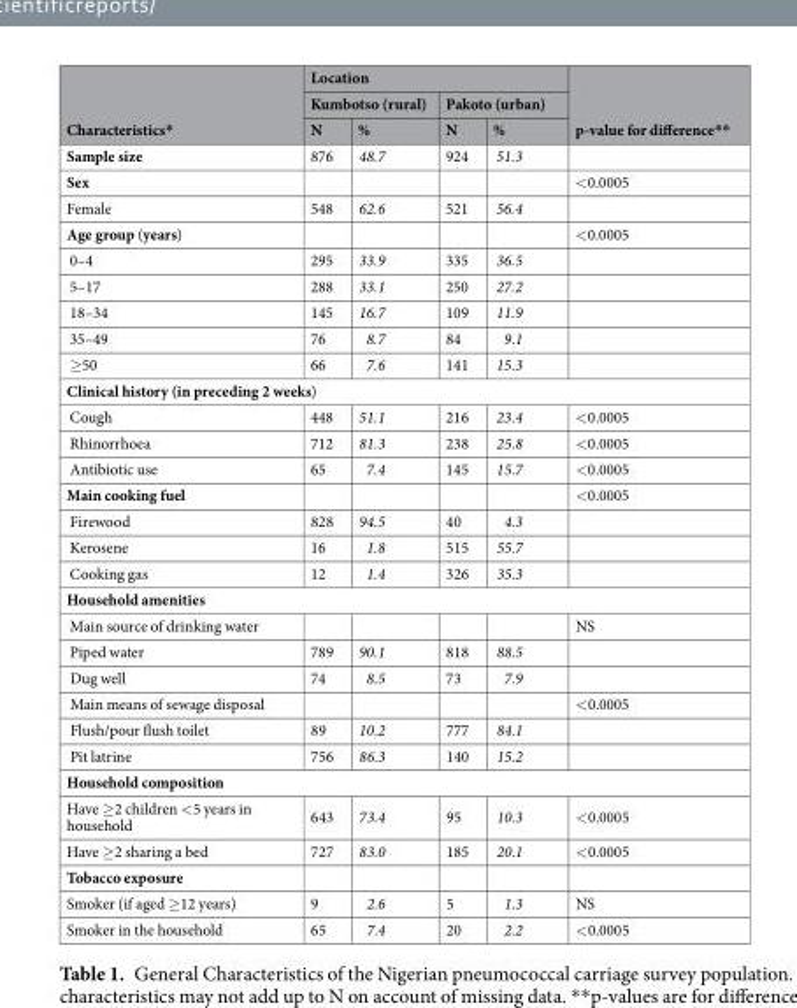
<table><thead><tr><td rowspan="3">Characteristics*</td><td colspan="4">Location</td><td rowspan="3">p-value for difference**</td></tr><tr><td colspan="2">Kumbotso (rural)</td><td colspan="2">Pakoto (urban)</td></tr><tr><td>N</td><td>%</td><td>N</td><td>%</td></tr></thead><tbody><tr><td>Sample size</td><td>876</td><td>48.7</td><td>924</td><td>51.3</td><td></td></tr><tr><td>Sex</td><td></td><td></td><td></td><td></td><td>&lt;0.0005</td></tr><tr><td>Female</td><td>548</td><td>62.6</td><td>521</td><td>56.4</td><td></td></tr><tr><td>Age group (years)</td><td></td><td></td><td></td><td></td><td>&lt;0.0005</td></tr><tr><td>0–4</td><td>295</td><td>33.9</td><td>335</td><td>36.5</td><td></td></tr><tr><td>5–17</td><td>288</td><td>33.1</td><td>250</td><td>27.2</td><td></td></tr><tr><td>18–34</td><td>145</td><td>16.7</td><td>109</td><td>11.9</td><td></td></tr><tr><td>35–49</td><td>76</td><td>8.7</td><td>84</td><td>9.1</td><td></td></tr><tr><td>≥50</td><td>66</td><td>7.6</td><td>141</td><td>15.3</td><td></td></tr><tr><td colspan="6">Clinical history (in preceding 2 weeks)</td></tr><tr><td>Cough</td><td>448</td><td>51.1</td><td>216</td><td>23.4</td><td>&lt;0.0005</td></tr><tr><td>Rhinorrhoea</td><td>712</td><td>81.3</td><td>238</td><td>25.8</td><td>&lt;0.0005</td></tr><tr><td>Antibiotic use</td><td>65</td><td>7.4</td><td>145</td><td>15.7</td><td>&lt;0.0005</td></tr><tr><td>Main cooking fuel</td><td></td><td></td><td></td><td></td><td>&lt;0.0005</td></tr><tr><td>Firewood</td><td>828</td><td>94.5</td><td>40</td><td>4.3</td><td></td></tr><tr><td>Kerosene</td><td>16</td><td>1.8</td><td>515</td><td>55.7</td><td></td></tr><tr><td>Cooking gas</td><td>12</td><td>1.4</td><td>326</td><td>35.3</td><td></td></tr><tr><td colspan="6">Household amenities</td></tr><tr><td>Main source of drinking water</td><td></td><td></td><td></td><td></td><td>NS</td></tr><tr><td>Piped water</td><td>789</td><td>90.1</td><td>818</td><td>88.5</td><td></td></tr><tr><td>Dug well</td><td>74</td><td>8.5</td><td>73</td><td>7.9</td><td></td></tr><tr><td>Main means of sewage disposal</td><td></td><td></td><td></td><td></td><td>&lt;0.0005</td></tr><tr><td>Flush/pour flush toilet</td><td>89</td><td>10.2</td><td>777</td><td>84.1</td><td></td></tr><tr><td>Pit latrine</td><td>756</td><td>86.3</td><td>140</td><td>15.2</td><td></td></tr><tr><td colspan="6">Household composition</td></tr><tr><td>Have ≥2 children &lt;5 years in household</td><td>643</td><td>73.4</td><td>95</td><td>10.3</td><td>&lt;0.0005</td></tr><tr><td>Have ≥2 sharing a bed</td><td>727</td><td>83.0</td><td>185</td><td>20.1</td><td>&lt;0.0005</td></tr><tr><td colspan="6">Tobacco exposure</td></tr><tr><td>Smoker (if aged ≥12 years)</td><td>9</td><td>2.6</td><td>5</td><td>1.3</td><td>NS</td></tr><tr><td>Smoker in the household</td><td>65</td><td>7.4</td><td>20</td><td>2.2</td><td>&lt;0.0005</td></tr></tbody></table>